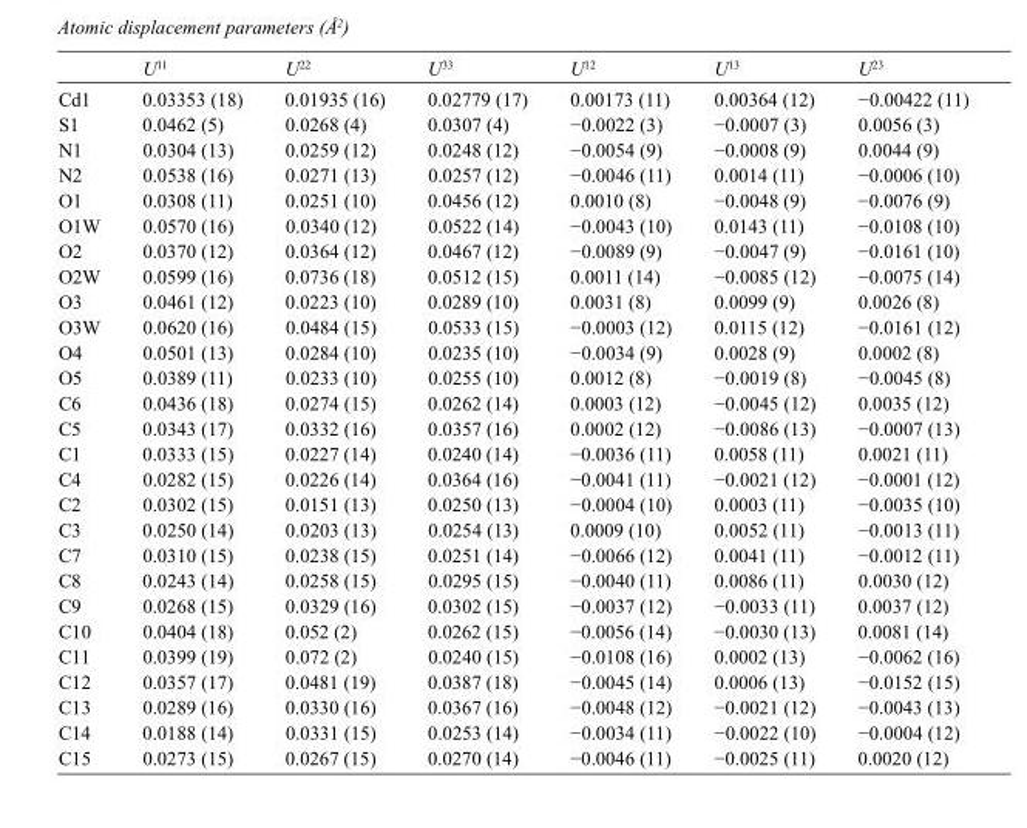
<table><thead><tr><td></td><td>U<sup>11</sup></td><td>U<sup>22</sup></td><td>U<sup>33</sup></td><td>U<sup>12</sup></td><td>U<sup>13</sup></td><td>U<sup>23</sup></td></tr></thead><tbody><tr><td>Cd1</td><td>0.03353 (18)</td><td>0.01935 (16)</td><td>0.02779 (17)</td><td>0.00173 (11)</td><td>0.00364 (12)</td><td>−0.00422 (11)</td></tr><tr><td>S1</td><td>0.0462 (5)</td><td>0.0268 (4)</td><td>0.0307 (4)</td><td>−0.0022 (3)</td><td>−0.0007 (3)</td><td>0.0056 (3)</td></tr><tr><td>N1</td><td>0.0304 (13)</td><td>0.0259 (12)</td><td>0.0248 (12)</td><td>−0.0054 (9)</td><td>−0.0008 (9)</td><td>0.0044 (9)</td></tr><tr><td>N2</td><td>0.0538 (16)</td><td>0.0271 (13)</td><td>0.0257 (12)</td><td>−0.0046 (11)</td><td>0.0014 (11)</td><td>−0.0006 (10)</td></tr><tr><td>O1</td><td>0.0308 (11)</td><td>0.0251 (10)</td><td>0.0456 (12)</td><td>0.0010 (8)</td><td>−0.0048 (9)</td><td>−0.0076 (9)</td></tr><tr><td>O1W</td><td>0.0570 (16)</td><td>0.0340 (12)</td><td>0.0522 (14)</td><td>−0.0043 (10)</td><td>0.0143 (11)</td><td>−0.0108 (10)</td></tr><tr><td>O2</td><td>0.0370 (12)</td><td>0.0364 (12)</td><td>0.0467 (12)</td><td>−0.0089 (9)</td><td>−0.0047 (9)</td><td>−0.0161 (10)</td></tr><tr><td>O2W</td><td>0.0599 (16)</td><td>0.0736 (18)</td><td>0.0512 (15)</td><td>0.0011 (14)</td><td>−0.0085 (12)</td><td>−0.0075 (14)</td></tr><tr><td>O3</td><td>0.0461 (12)</td><td>0.0223 (10)</td><td>0.0289 (10)</td><td>0.0031 (8)</td><td>0.0099 (9)</td><td>0.0026 (8)</td></tr><tr><td>O3W</td><td>0.0620 (16)</td><td>0.0484 (15)</td><td>0.0533 (15)</td><td>−0.0003 (12)</td><td>0.0115 (12)</td><td>−0.0161 (12)</td></tr><tr><td>O4</td><td>0.0501 (13)</td><td>0.0284 (10)</td><td>0.0235 (10)</td><td>−0.0034 (9)</td><td>0.0028 (9)</td><td>0.0002 (8)</td></tr><tr><td>O5</td><td>0.0389 (11)</td><td>0.0233 (10)</td><td>0.0255 (10)</td><td>0.0012 (8)</td><td>−0.0019 (8)</td><td>−0.0045 (8)</td></tr><tr><td>C6</td><td>0.0436 (18)</td><td>0.0274 (15)</td><td>0.0262 (14)</td><td>0.0003 (12)</td><td>−0.0045 (12)</td><td>0.0035 (12)</td></tr><tr><td>C5</td><td>0.0343 (17)</td><td>0.0332 (16)</td><td>0.0357 (16)</td><td>0.0002 (12)</td><td>−0.0086 (13)</td><td>−0.0007 (13)</td></tr><tr><td>C1</td><td>0.0333 (15)</td><td>0.0227 (14)</td><td>0.0240 (14)</td><td>−0.0036 (11)</td><td>0.0058 (11)</td><td>0.0021 (11)</td></tr><tr><td>C4</td><td>0.0282 (15)</td><td>0.0226 (14)</td><td>0.0364 (16)</td><td>−0.0041 (11)</td><td>−0.0021 (12)</td><td>−0.0001 (12)</td></tr><tr><td>C2</td><td>0.0302 (15)</td><td>0.0151 (13)</td><td>0.0250 (13)</td><td>−0.0004 (10)</td><td>0.0003 (11)</td><td>−0.0035 (10)</td></tr><tr><td>C3</td><td>0.0250 (14)</td><td>0.0203 (13)</td><td>0.0254 (13)</td><td>0.0009 (10)</td><td>0.0052 (11)</td><td>−0.0013 (11)</td></tr><tr><td>C7</td><td>0.0310 (15)</td><td>0.0238 (15)</td><td>0.0251 (14)</td><td>−0.0066 (12)</td><td>0.0041 (11)</td><td>−0.0012 (11)</td></tr><tr><td>C8</td><td>0.0243 (14)</td><td>0.0258 (15)</td><td>0.0295 (15)</td><td>−0.0040 (11)</td><td>0.0086 (11)</td><td>0.0030 (12)</td></tr><tr><td>C9</td><td>0.0268 (15)</td><td>0.0329 (16)</td><td>0.0302 (15)</td><td>−0.0037 (12)</td><td>−0.0033 (11)</td><td>0.0037 (12)</td></tr><tr><td>C10</td><td>0.0404 (18)</td><td>0.052 (2)</td><td>0.0262 (15)</td><td>−0.0056 (14)</td><td>−0.0030 (13)</td><td>0.0081 (14)</td></tr><tr><td>C11</td><td>0.0399 (19)</td><td>0.072 (2)</td><td>0.0240 (15)</td><td>−0.0108 (16)</td><td>0.0002 (13)</td><td>−0.0062 (16)</td></tr><tr><td>C12</td><td>0.0357 (17)</td><td>0.0481 (19)</td><td>0.0387 (18)</td><td>−0.0045 (14)</td><td>0.0006 (13)</td><td>−0.0152 (15)</td></tr><tr><td>C13</td><td>0.0289 (16)</td><td>0.0330 (16)</td><td>0.0367 (16)</td><td>−0.0048 (12)</td><td>−0.0021 (12)</td><td>−0.0043 (13)</td></tr><tr><td>C14</td><td>0.0188 (14)</td><td>0.0331 (15)</td><td>0.0253 (14)</td><td>−0.0034 (11)</td><td>−0.0022 (10)</td><td>−0.0004 (12)</td></tr><tr><td>C15</td><td>0.0273 (15)</td><td>0.0267 (15)</td><td>0.0270 (14)</td><td>−0.0046 (11)</td><td>−0.0025 (11)</td><td>0.0020 (12)</td></tr></tbody></table>